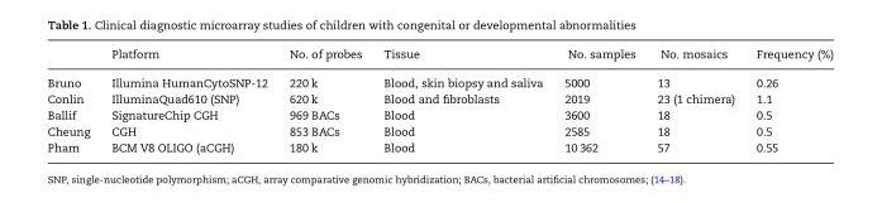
<table><thead><tr><td></td><td>Platform</td><td>No. of probes</td><td>Tissue</td><td>No. samples</td><td>No. mosaics</td><td>Frequency (%)</td></tr></thead><tbody><tr><td>Bruno</td><td>Illumina HumanCytoSNP-12</td><td>220 k</td><td>Blood, skin biopsy and saliva</td><td>5000</td><td>13</td><td>0.26</td></tr><tr><td>Conlin</td><td>IlluminaQuad610 (SNP)</td><td>620 k</td><td>Blood and fibroblasts</td><td>2019</td><td>23 (1 chimera)</td><td>1.1</td></tr><tr><td>Ballif</td><td>SignatureChip CGH</td><td>969 BACs</td><td>Blood</td><td>3600</td><td>18</td><td>0.5</td></tr><tr><td>Cheung</td><td>CGH</td><td>853 BACs</td><td>Blood</td><td>2585</td><td>18</td><td>0.5</td></tr><tr><td>Pham</td><td>BCM V8 OLIGO (aCGH)</td><td>180 k</td><td>Blood</td><td>10 362</td><td>57</td><td>0.55</td></tr></tbody></table>